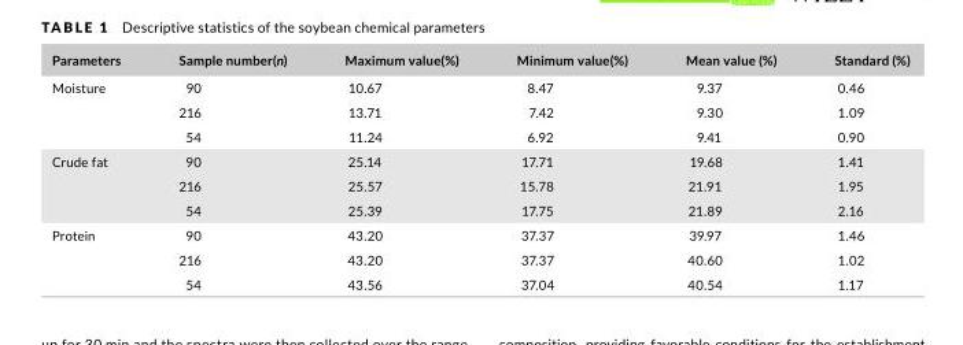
<table><thead><tr><td>Parameters</td><td>Sample number(n)</td><td>Maximum value(%)</td><td>Minimum value(%)</td><td>Mean value (%)</td><td>Standard (%)</td></tr></thead><tbody><tr><td rowspan="3">Moisture</td><td>90</td><td>10.67</td><td>8.47</td><td>9.37</td><td>0.46</td></tr><tr><td>216</td><td>13.71</td><td>7.42</td><td>9.30</td><td>1.09</td></tr><tr><td>54</td><td>11.24</td><td>6.92</td><td>9.41</td><td>0.90</td></tr><tr><td rowspan="3">Crude fat</td><td>90</td><td>25.14</td><td>17.71</td><td>19.68</td><td>1.41</td></tr><tr><td>216</td><td>25.57</td><td>15.78</td><td>21.91</td><td>1.95</td></tr><tr><td>54</td><td>25.39</td><td>17.75</td><td>21.89</td><td>2.16</td></tr><tr><td rowspan="3">Protein</td><td>90</td><td>43.20</td><td>37.37</td><td>39.97</td><td>1.46</td></tr><tr><td>216</td><td>43.20</td><td>37.37</td><td>40.60</td><td>1.02</td></tr><tr><td>54</td><td>43.56</td><td>37.04</td><td>40.54</td><td>1.17</td></tr></tbody></table>